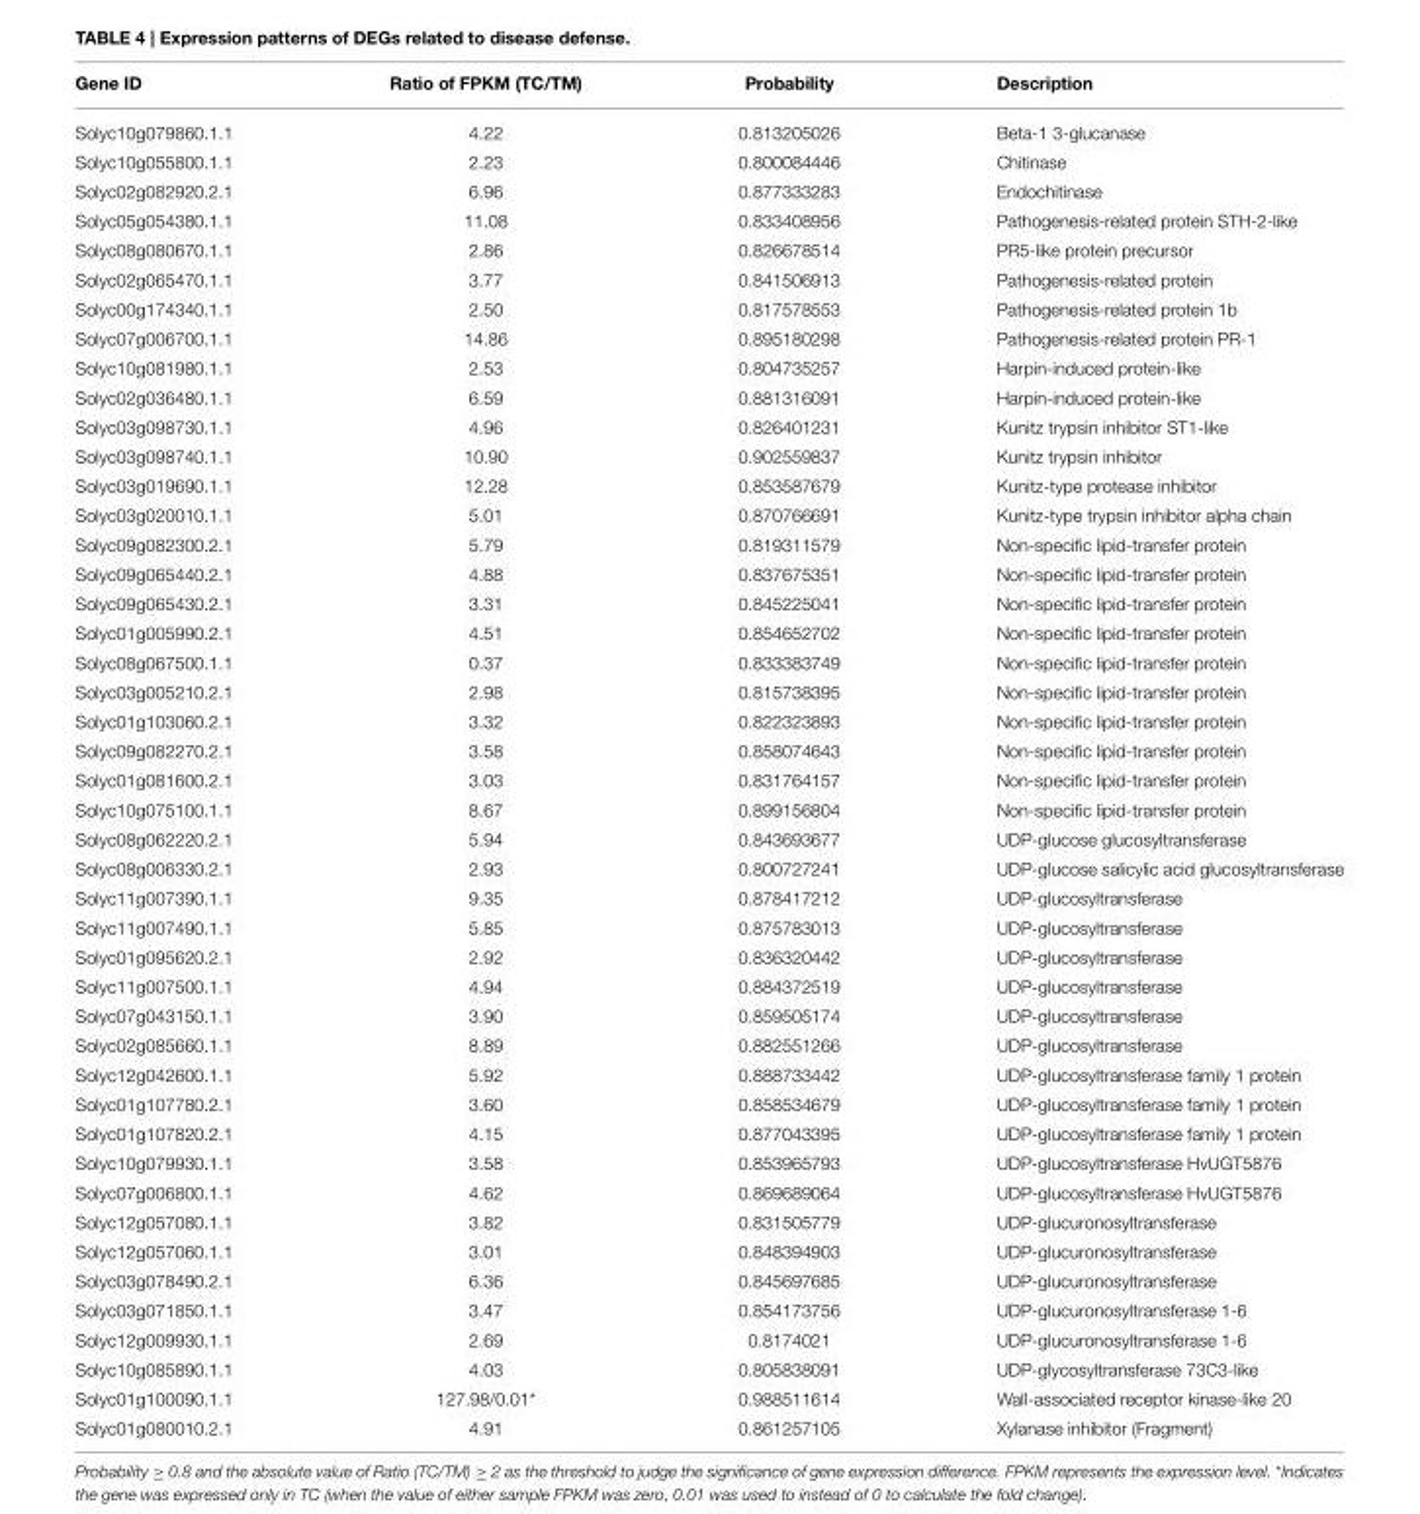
<table><thead><tr><td>Gene ID</td><td>Ratio of FPKM (TC/TM)</td><td>Probability</td><td>Description</td></tr></thead><tbody><tr><td>Solyc10g079860.1.1</td><td>4.22</td><td>0.813205026</td><td>Beta-1 3-glucanase</td></tr><tr><td>Solyc10g055800.1.1</td><td>2.23</td><td>0.800084446</td><td>Chitinase</td></tr><tr><td>Solyc02g082920.2.1</td><td>6.96</td><td>0.877333283</td><td>Endochitinase</td></tr><tr><td>Solyc05g054380.1.1</td><td>11.08</td><td>0.833408956</td><td>Pathogenesis-related protein STH-2-like</td></tr><tr><td>Solyc08g080670.1.1</td><td>2.86</td><td>0.826678514</td><td>PR5-like protein precursor</td></tr><tr><td>Solyc02g065470.1.1</td><td>3.77</td><td>0.841506913</td><td>Pathogenesis-related protein</td></tr><tr><td>Solyc00g174340.1.1</td><td>2.50</td><td>0.817578553</td><td>Pathogenesis-related protein 1b</td></tr><tr><td>Solyc07g006700.1.1</td><td>14.86</td><td>0.895180298</td><td>Pathogenesis-related protein PR-1</td></tr><tr><td>Solyc10g081980.1.1</td><td>2.53</td><td>0.804735257</td><td>Harpin-induced protein-like</td></tr><tr><td>Solyc02g036480.1.1</td><td>6.59</td><td>0.881316091</td><td>Harpin-induced protein-like</td></tr><tr><td>Solyc03g098730.1.1</td><td>4.96</td><td>0.826401231</td><td>Kunitz trypsin inhibitor ST1-like</td></tr><tr><td>Solyc03g098740.1.1</td><td>10.90</td><td>0.902559837</td><td>Kunitz trypsin inhibitor</td></tr><tr><td>Solyc03g019690.1.1</td><td>12.28</td><td>0.853587679</td><td>Kunitz-type protease inhibitor</td></tr><tr><td>Solyc03g020010.1.1</td><td>5.01</td><td>0.870766691</td><td>Kunitz-type trypsin inhibitor alpha chain</td></tr><tr><td>Solyc09g082300.2.1</td><td>5.79</td><td>0.819311579</td><td>Non-specific lipid-transfer protein</td></tr><tr><td>Solyc09g065440.2.1</td><td>4.88</td><td>0.837675351</td><td>Non-specific lipid-transfer protein</td></tr><tr><td>Solyc09g065430.2.1</td><td>3.31</td><td>0.845225041</td><td>Non-specific lipid-transfer protein</td></tr><tr><td>Solyc01g005990.2.1</td><td>4.51</td><td>0.854652702</td><td>Non-specific lipid-transfer protein</td></tr><tr><td>Solyc08g067500.1.1</td><td>0.37</td><td>0.833383749</td><td>Non-specific lipid-transfer protein</td></tr><tr><td>Solyc03g005210.2.1</td><td>2.98</td><td>0.815738395</td><td>Non-specific lipid-transfer protein</td></tr><tr><td>Solyc01g103060.2.1</td><td>3.32</td><td>0.822323893</td><td>Non-specific lipid-transfer protein</td></tr><tr><td>Solyc09g082270.2.1</td><td>3.58</td><td>0.858074643</td><td>Non-specific lipid-transfer protein</td></tr><tr><td>Solyc01g081600.2.1</td><td>3.03</td><td>0.831764157</td><td>Non-specific lipid-transfer protein</td></tr><tr><td>Solyc10g075100.1.1</td><td>8.67</td><td>0.899156804</td><td>Non-specific lipid-transfer protein</td></tr><tr><td>Solyc08g062220.2.1</td><td>5.94</td><td>0.843693677</td><td>UDP-glucose glucosyltransferase</td></tr><tr><td>Solyc08g006330.2.1</td><td>2.93</td><td>0.800727241</td><td>UDP-glucose salicylic acid glucosyltransferase</td></tr><tr><td>Solyc11g007390.1.1</td><td>9.35</td><td>0.878417212</td><td>UDP-glucosyltransferase</td></tr><tr><td>Solyc11g007490.1.1</td><td>5.85</td><td>0.875783013</td><td>UDP-glucosyltransferase</td></tr><tr><td>Solyc01g095620.2.1</td><td>2.92</td><td>0.836320442</td><td>UDP-glucosyltransferase</td></tr><tr><td>Solyc11g007500.1.1</td><td>4.94</td><td>0.884372519</td><td>UDP-glucosyltransferase</td></tr><tr><td>Solyc07g043150.1.1</td><td>3.90</td><td>0.859505174</td><td>UDP-glucosyltransferase</td></tr><tr><td>Solyc02g085660.1.1</td><td>8.89</td><td>0.882551266</td><td>UDP-glucosyltransferase</td></tr><tr><td>Solyc12g042600.1.1</td><td>5.92</td><td>0.888733442</td><td>UDP-glucosyltransferase family 1 protein</td></tr><tr><td>Solyc01g107780.2.1</td><td>3.60</td><td>0.858534679</td><td>UDP-glucosyltransferase family 1 protein</td></tr><tr><td>Solyc01g107820.2.1</td><td>4.15</td><td>0.877043395</td><td>UDP-glucosyltransferase family 1 protein</td></tr><tr><td>Solyc10g079930.1.1</td><td>3.58</td><td>0.853965793</td><td>UDP-glucosyltransferase HvUGT5876</td></tr><tr><td>Solyc07g006800.1.1</td><td>4.62</td><td>0.869689064</td><td>UDP-glucosyltransferase HvUGT5876</td></tr><tr><td>Solyc12g057080.1.1</td><td>3.82</td><td>0.831505779</td><td>UDP-glucuronosyltransferase</td></tr><tr><td>Solyc12g057060.1.1</td><td>3.01</td><td>0.848394903</td><td>UDP-glucuronosyltransferase</td></tr><tr><td>Solyc03g078490.2.1</td><td>6.36</td><td>0.845697685</td><td>UDP-glucuronosyltransferase</td></tr><tr><td>Solyc03g071850.1.1</td><td>3.47</td><td>0.854173756</td><td>UDP-glucuronosyltransferase 1-6</td></tr><tr><td>Solyc12g009930.1.1</td><td>2.69</td><td>0.8174021</td><td>UDP-glucuronosyltransferase 1-6</td></tr><tr><td>Solyc10g085890.1.1</td><td>4.03</td><td>0.805838091</td><td>UDP-glycosyltransferase 73C3-like</td></tr><tr><td>Solyc01g100090.1.1</td><td>127.98/0.01*</td><td>0.988511614</td><td>Wall-associated receptor kinase-like 20</td></tr><tr><td>Solyc01g080010.2.1</td><td>4.91</td><td>0.861257105</td><td>Xylanase inhibitor (Fragment)</td></tr></tbody></table>